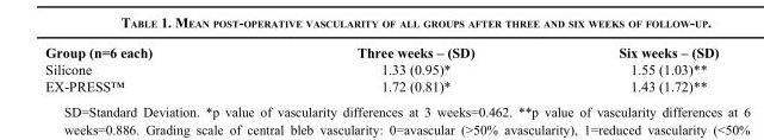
<table><thead><tr><td>Group (n=6 each)</td><td>Three weeks – (SD)</td><td>Six weeks – (SD)</td></tr></thead><tbody><tr><td>Silicone</td><td>1.33 (0.95)*</td><td>1.55 (1.03)**</td></tr><tr><td>EX-PRESS™</td><td>1.72 (0.81)*</td><td>1.43 (1.72)**</td></tr></tbody></table>